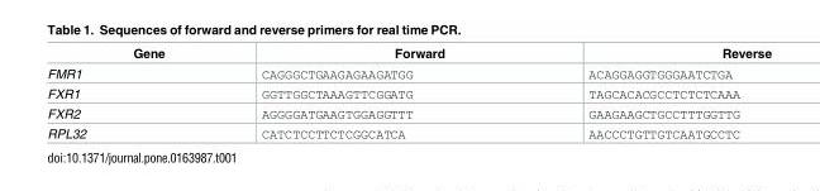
<table><thead><tr><td>Gene</td><td>Forward</td><td>Reverse</td></tr></thead><tbody><tr><td>FMR1</td><td>CAGGGCTGAAGAGAAGATGG</td><td>ACAGGAGGTGGGAATCTGA</td></tr><tr><td>FXR1</td><td>GGTTGGCTAAAGTTCGGATG</td><td>TAGCACACGCCTCTCTCAAA</td></tr><tr><td>FXR2</td><td>AGGGGATGAAGTGGAGGTTT</td><td>GAAGAAGCTGCCTTTGGTTG</td></tr><tr><td>RPL32</td><td>CATCTCCTTCTCGGCATCA</td><td>AACCCTGTTGTCAATGCCTC</td></tr></tbody></table>